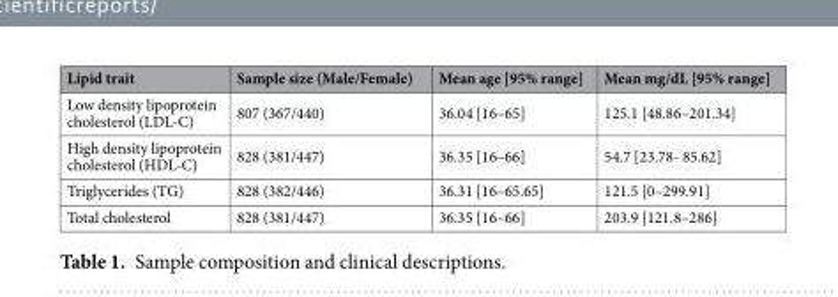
<table><thead><tr><td>Lipid trait</td><td>Sample size (Male/Female)</td><td>Mean age [95% range]</td><td>Mean mg/dL [95% range]</td></tr></thead><tbody><tr><td>Low density lipoprotein cholesterol (LDL-C)</td><td>807 (367/440)</td><td>36.04 [16–65]</td><td>125.1 [48.86–201.34]</td></tr><tr><td>High density lipoprotein cholesterol (HDL-C)</td><td>828 (381/447)</td><td>36.35 [16–66]</td><td>54.7 [23.78- 85.62]</td></tr><tr><td>Triglycerides (TG)</td><td>828 (382/446)</td><td>36.31 [16–65.65]</td><td>121.5 [0–299.91]</td></tr><tr><td>Total cholesterol</td><td>828 (381/447)</td><td>36.35 [16–66]</td><td>203.9 [121.8–286]</td></tr></tbody></table>